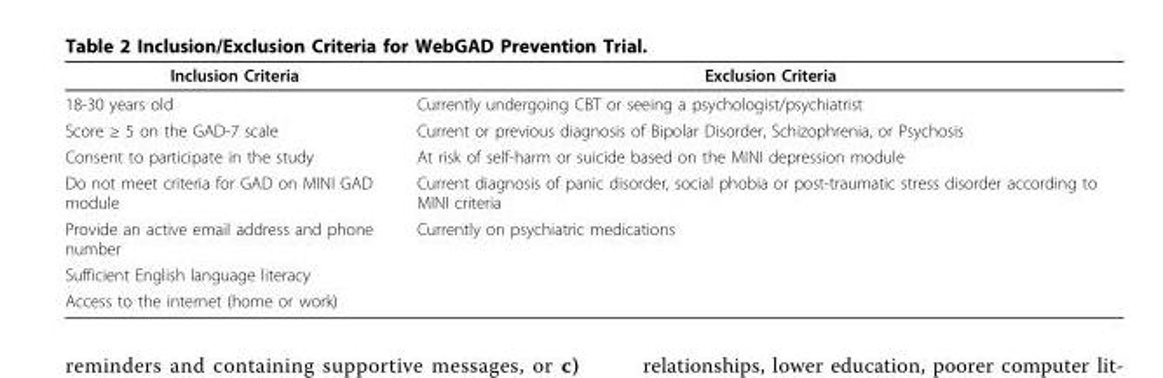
<table><thead><tr><td>Inclusion Criteria</td><td>Exclusion Criteria</td></tr></thead><tbody><tr><td>18-30 years old</td><td>Currently undergoing CBT or seeing a psychologist/psychiatrist</td></tr><tr><td>Score ≥ 5 on the GAD-7 scale</td><td>Current or previous diagnosis of Bipolar Disorder, Schizophrenia, or Psychosis</td></tr><tr><td>Consent to participate in the study</td><td>At risk of self-harm or suicide based on the MINI depression module</td></tr><tr><td>Do not meet criteria for GAD on MINI GAD module</td><td>Current diagnosis of panic disorder, social phobia or post-traumatic stress disorder according to MINI criteria</td></tr><tr><td>Provide an active email address and phone number</td><td>Currently on psychiatric medications</td></tr><tr><td colspan="2">Sufficient English language literacy</td></tr><tr><td>Access to the internet (home or work)</td><td></td></tr></tbody></table>